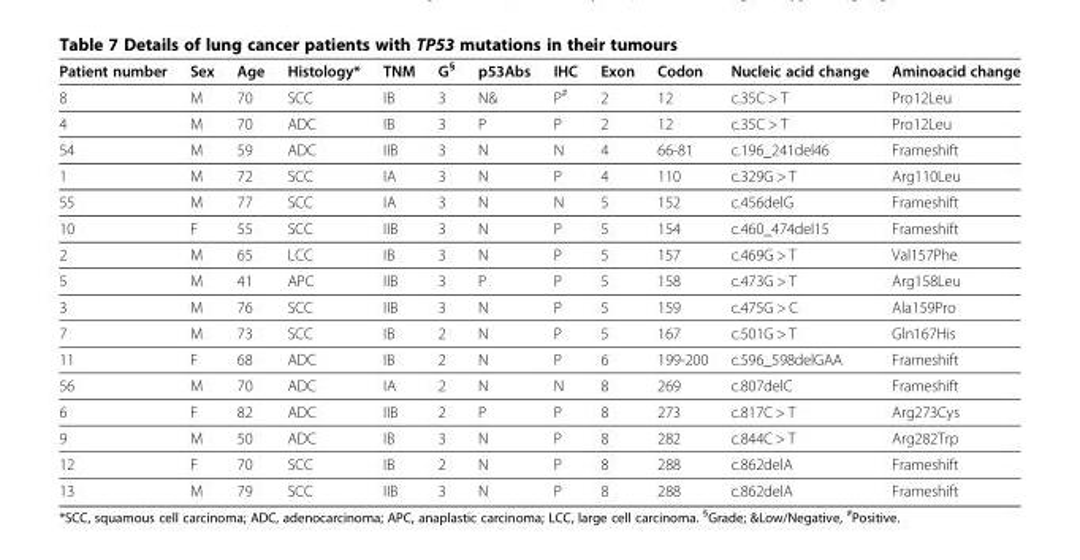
<table><thead><tr><td>Patient number</td><td>Sex</td><td>Age</td><td>Histology*</td><td>TNM</td><td>G<sup>§</sup></td><td>p53Abs</td><td>IHC</td><td>Exon</td><td>Codon</td><td>Nucleic acid change</td><td>Aminoacid change</td></tr></thead><tbody><tr><td>8</td><td>M</td><td>70</td><td>SCC</td><td>IB</td><td>3</td><td>N&amp;</td><td>P<sup>#</sup></td><td>2</td><td>12</td><td>c.35C &gt; T</td><td>Pro12Leu</td></tr><tr><td>4</td><td>M</td><td>70</td><td>ADC</td><td>IB</td><td>3</td><td>P</td><td>P</td><td>2</td><td>12</td><td>c.35C &gt; T</td><td>Pro12Leu</td></tr><tr><td>54</td><td>M</td><td>59</td><td>ADC</td><td>IIB</td><td>3</td><td>N</td><td>N</td><td>4</td><td>66-81</td><td>c.196_241del46</td><td>Frameshift</td></tr><tr><td>1</td><td>M</td><td>72</td><td>SCC</td><td>IA</td><td>3</td><td>N</td><td>P</td><td>4</td><td>110</td><td>c.329G &gt; T</td><td>Arg110Leu</td></tr><tr><td>55</td><td>M</td><td>77</td><td>SCC</td><td>IA</td><td>3</td><td>N</td><td>N</td><td>5</td><td>152</td><td>c.456delG</td><td>Frameshift</td></tr><tr><td>10</td><td>F</td><td>55</td><td>SCC</td><td>IIB</td><td>3</td><td>N</td><td>P</td><td>5</td><td>154</td><td>c.460_474del15</td><td>Frameshift</td></tr><tr><td>2</td><td>M</td><td>65</td><td>LCC</td><td>IB</td><td>3</td><td>N</td><td>P</td><td>5</td><td>157</td><td>c.469G &gt; T</td><td>Val157Phe</td></tr><tr><td>5</td><td>M</td><td>41</td><td>APC</td><td>IIB</td><td>3</td><td>P</td><td>P</td><td>5</td><td>158</td><td>c.473G &gt; T</td><td>Arg158Leu</td></tr><tr><td>3</td><td>M</td><td>76</td><td>SCC</td><td>IIB</td><td>3</td><td>N</td><td>P</td><td>5</td><td>159</td><td>c.475G &gt; C</td><td>Ala159Pro</td></tr><tr><td>7</td><td>M</td><td>73</td><td>SCC</td><td>IB</td><td>2</td><td>N</td><td>P</td><td>5</td><td>167</td><td>c.501G &gt; T</td><td>Gln167His</td></tr><tr><td>11</td><td>F</td><td>68</td><td>ADC</td><td>IB</td><td>2</td><td>N</td><td>P</td><td>6</td><td>199-200</td><td>c.596_598delGAA</td><td>Frameshift</td></tr><tr><td>56</td><td>M</td><td>70</td><td>ADC</td><td>IA</td><td>2</td><td>N</td><td>N</td><td>8</td><td>269</td><td>c.807delC</td><td>Frameshift</td></tr><tr><td>6</td><td>F</td><td>82</td><td>ADC</td><td>IIB</td><td>2</td><td>P</td><td>P</td><td>8</td><td>273</td><td>c.817C &gt; T</td><td>Arg273Cys</td></tr><tr><td>9</td><td>M</td><td>50</td><td>ADC</td><td>IB</td><td>3</td><td>N</td><td>P</td><td>8</td><td>282</td><td>c.844C &gt; T</td><td>Arg282Trp</td></tr><tr><td>12</td><td>F</td><td>70</td><td>SCC</td><td>IB</td><td>2</td><td>N</td><td>P</td><td>8</td><td>288</td><td>c.862delA</td><td>Frameshift</td></tr><tr><td>13</td><td>M</td><td>79</td><td>SCC</td><td>IIB</td><td>3</td><td>N</td><td>P</td><td>8</td><td>288</td><td>c.862delA</td><td>Frameshift</td></tr></tbody></table>